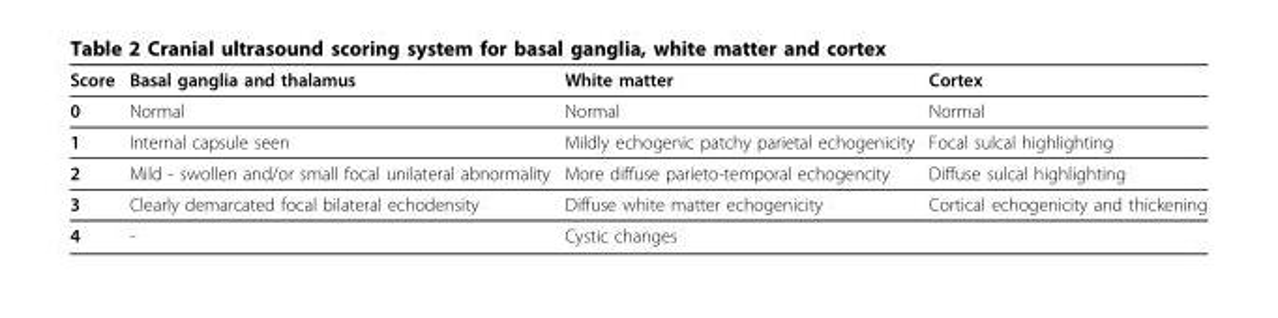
<table><thead><tr><td>Score</td><td>Basal ganglia and thalamus</td><td>White matter</td><td>Cortex</td></tr></thead><tbody><tr><td>0</td><td>Normal</td><td>Normal</td><td>Normal</td></tr><tr><td>1</td><td>Internal capsule seen</td><td>Mildly echogenic patchy parietal echogenicity</td><td>Focal sulcal highlighting</td></tr><tr><td>2</td><td>Mild - swollen and/or small focal unilateral abnormality</td><td>More diffuse parieto-temporal echogencity</td><td>Diffuse sulcal highlighting</td></tr><tr><td>3</td><td>Clearly demarcated focal bilateral echodensity</td><td>Diffuse white matter echogenicity</td><td>Cortical echogenicity and thickening</td></tr><tr><td>4</td><td>-</td><td>Cystic changes</td><td></td></tr></tbody></table>